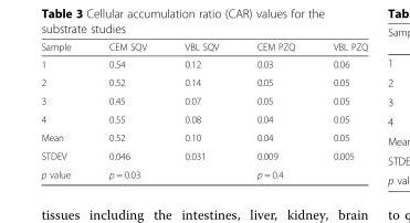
<table><thead><tr><td>Sample</td><td>CEM SQV</td><td>VBL SQV</td><td>CEM PZQ</td><td>VBL PZQ</td></tr></thead><tbody><tr><td>1</td><td>0.54</td><td>0.12</td><td>0.03</td><td>0.06</td></tr><tr><td>2</td><td>0.52</td><td>0.14</td><td>0.05</td><td>0.05</td></tr><tr><td>3</td><td>0.45</td><td>0.07</td><td>0.05</td><td>0.05</td></tr><tr><td>4</td><td>0.55</td><td>0.08</td><td>0.04</td><td>0.05</td></tr><tr><td>Mean</td><td>0.52</td><td>0.10</td><td>0.04</td><td>0.05</td></tr><tr><td>STDEV</td><td>0.046</td><td>0.031</td><td>0.009</td><td>0.005</td></tr><tr><td>p value</td><td colspan="2">p = 0.03</td><td colspan="2">p = 0.4</td></tr></tbody></table>